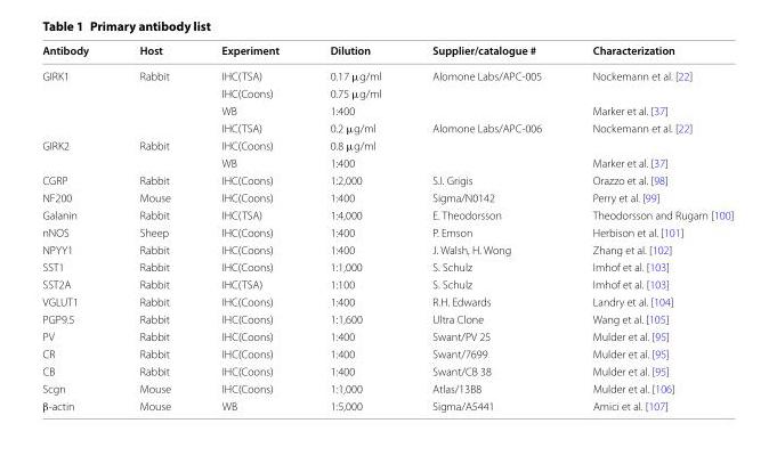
<table><thead><tr><td>Antibody</td><td>Host</td><td>Experiment</td><td>Dilution</td><td>Supplier/catalogue #</td><td>Characterization</td></tr></thead><tbody><tr><td rowspan="4">GIRK1</td><td>Rabbit</td><td>IHC(TSA)</td><td>0.17 μg/ml</td><td>Alomone Labs/APC‑005</td><td rowspan="2">Nockemann et al. [22]</td></tr><tr><td></td><td>IHC(Coons)</td><td>0.75 μg/ml</td><td></td></tr><tr><td></td><td>WB</td><td>1:400</td><td></td><td>Marker et al. [37]</td></tr><tr><td></td><td>IHC(TSA)</td><td>0.2 μg/ml</td><td>Alomone Labs/APC‑006</td><td rowspan="2">Nockemann et al. [22]</td></tr><tr><td rowspan="2">GIRK2</td><td>Rabbit</td><td>IHC(Coons)</td><td>0.8 μg/ml</td><td></td></tr><tr><td></td><td>WB</td><td>1:400</td><td></td><td>Marker et al. [37]</td></tr><tr><td>CGRP</td><td>Rabbit</td><td>IHC(Coons)</td><td>1:2,000</td><td>S.I. Grigis</td><td>Orazzo et al. [98]</td></tr><tr><td>NF200</td><td>Mouse</td><td>IHC(Coons)</td><td>1:400</td><td>Sigma/N0142</td><td>Perry et al. [99]</td></tr><tr><td>Galanin</td><td>Rabbit</td><td>IHC(TSA)</td><td>1:4,000</td><td>E. Theodorsson</td><td>Theodorsson and Rugarn [100]</td></tr><tr><td>nNOS</td><td>Sheep</td><td>IHC(Coons)</td><td>1:400</td><td>P. Emson</td><td>Herbison et al. [101]</td></tr><tr><td>NPYY1</td><td>Rabbit</td><td>IHC(Coons)</td><td>1:400</td><td>J. Walsh, H. Wong</td><td>Zhang et al. [102]</td></tr><tr><td>SST1</td><td>Rabbit</td><td>IHC(Coons)</td><td>1:1,000</td><td>S. Schulz</td><td>Imhof et al. [103]</td></tr><tr><td>SST2A</td><td>Rabbit</td><td>IHC(TSA)</td><td>1:100</td><td>S. Schulz</td><td>Imhof et al. [103]</td></tr><tr><td>VGLUT1</td><td>Rabbit</td><td>IHC(Coons)</td><td>1:400</td><td>R.H. Edwards</td><td>Landry et al. [104]</td></tr><tr><td>PGP9.5</td><td>Rabbit</td><td>IHC(Coons)</td><td>1:1,600</td><td>Ultra Clone</td><td>Wang et al. [105]</td></tr><tr><td>PV</td><td>Rabbit</td><td>IHC(Coons)</td><td>1:400</td><td>Swant/PV 25</td><td>Mulder et al. [95]</td></tr><tr><td>CR</td><td>Rabbit</td><td>IHC(Coons)</td><td>1:400</td><td>Swant/7699</td><td>Mulder et al. [95]</td></tr><tr><td>CB</td><td>Rabbit</td><td>IHC(Coons)</td><td>1:400</td><td>Swant/CB 38</td><td>Mulder et al. [95]</td></tr><tr><td>Scgn</td><td>Mouse</td><td>IHC(Coons)</td><td>1:1,000</td><td>Atlas/13B8</td><td>Mulder et al. [106]</td></tr><tr><td>β‑actin</td><td>Mouse</td><td>WB</td><td>1:5,000</td><td>Sigma/A5441</td><td>Amici et al. [107]</td></tr></tbody></table>